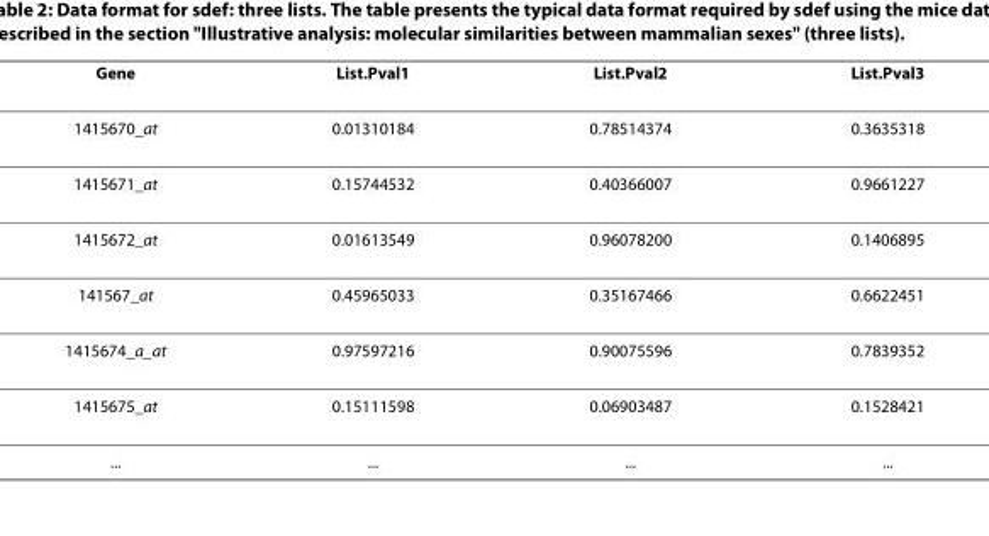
<table><thead><tr><td>Gene</td><td>List.Pval1</td><td>List.Pval2</td><td>List.Pval3</td></tr></thead><tbody><tr><td>1415670_at</td><td>0.01310184</td><td>0.78514374</td><td>0.3635318</td></tr><tr><td>1415671_at</td><td>0.15744532</td><td>0.40366007</td><td>0.9661227</td></tr><tr><td>1415672_at</td><td>0.01613549</td><td>0.96078200</td><td>0.1406895</td></tr><tr><td>141567_at</td><td>0.45965033</td><td>0.35167466</td><td>0.6622451</td></tr><tr><td>1415674_a_at</td><td>0.97597216</td><td>0.90075596</td><td>0.7839352</td></tr><tr><td>1415675_at</td><td>0.15111598</td><td>0.06903487</td><td>0.1528421</td></tr><tr><td>...</td><td>...</td><td>...</td><td>...</td></tr></tbody></table>